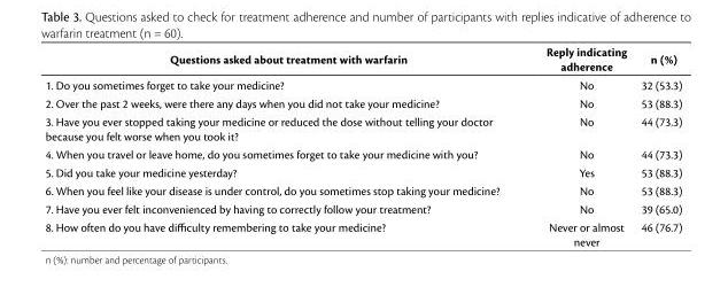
<table><thead><tr><td>Questions asked about treatment with warfarin</td><td>Reply indicating adherence</td><td>n (%)</td></tr></thead><tbody><tr><td>1. Do you sometimes forget to take your medicine?</td><td>No</td><td>32 (53.3)</td></tr><tr><td>2. Over the past 2 weeks, were there any days when you did not take your medicine?</td><td>No</td><td>53 (88.3)</td></tr><tr><td>3. Have you ever stopped taking your medicine or reduced the dose without telling your doctor because you felt worse when you took it?</td><td>No</td><td>44 (73.3)</td></tr><tr><td>4. When you travel or leave home, do you sometimes forget to take your medicine with you?</td><td>No</td><td>44 (73.3)</td></tr><tr><td>5. Did you take your medicine yesterday?</td><td>Yes</td><td>53 (88.3)</td></tr><tr><td>6. When you feel like your disease is under control, do you sometimes stop taking your medicine?</td><td>No</td><td>53 (88.3)</td></tr><tr><td>7. Have you ever felt inconvenienced by having to correctly follow your treatment?</td><td>No</td><td>39 (65.0)</td></tr><tr><td>8. How often do you have difficulty remembering to take your medicine?</td><td>Never or almost never</td><td>46 (76.7)</td></tr></tbody></table>